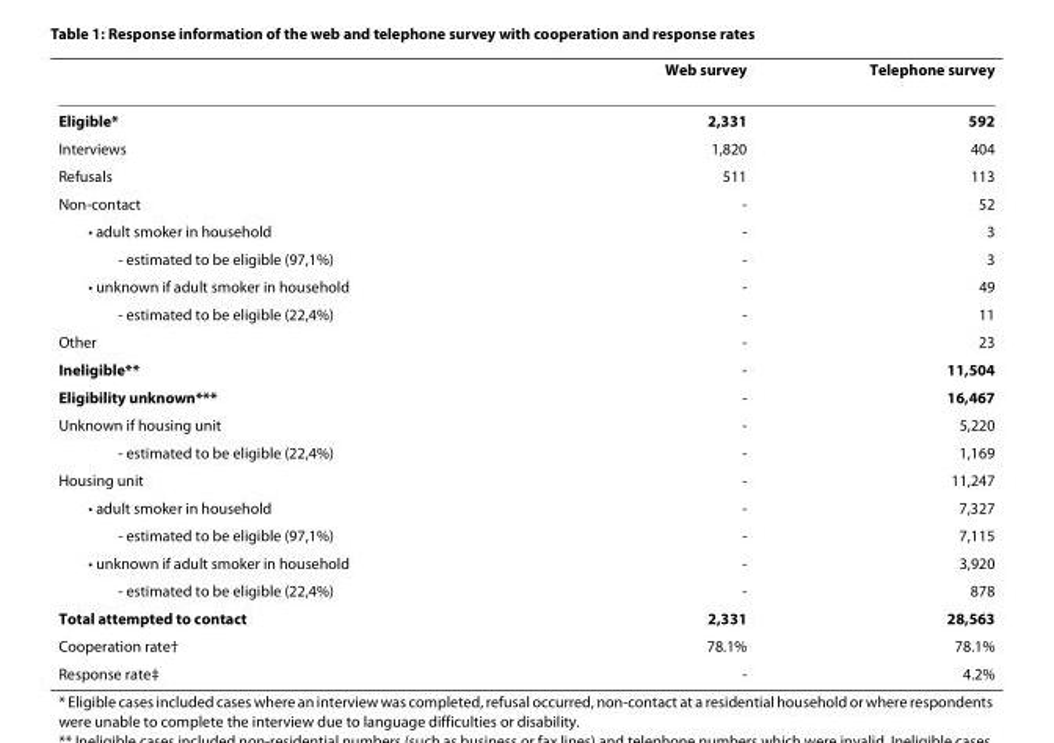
<table><thead><tr><td></td><td>Web survey</td><td>Telephone survey</td></tr></thead><tbody><tr><td>Eligible*</td><td>2,331</td><td>592</td></tr><tr><td>Interviews</td><td>1,820</td><td>404</td></tr><tr><td>Refusals</td><td>511</td><td>113</td></tr><tr><td>Non-contact</td><td>-</td><td>52</td></tr><tr><td>• adult smoker in household</td><td>-</td><td>3</td></tr><tr><td>- estimated to be eligible (97,1%)</td><td>-</td><td>3</td></tr><tr><td>• unknown if adult smoker in household</td><td>-</td><td>49</td></tr><tr><td>- estimated to be eligible (22,4%)</td><td>-</td><td>11</td></tr><tr><td>Other</td><td>-</td><td>23</td></tr><tr><td>Ineligible**</td><td>-</td><td>11,504</td></tr><tr><td>Eligibility unknown***</td><td>-</td><td>16,467</td></tr><tr><td>Unknown if housing unit</td><td>-</td><td>5,220</td></tr><tr><td>- estimated to be eligible (22,4%)</td><td>-</td><td>1,169</td></tr><tr><td>Housing unit</td><td>-</td><td>11,247</td></tr><tr><td>• adult smoker in household</td><td>-</td><td>7,327</td></tr><tr><td>- estimated to be eligible (97,1%)</td><td>-</td><td>7,115</td></tr><tr><td>• unknown if adult smoker in household</td><td>-</td><td>3,920</td></tr><tr><td>- estimated to be eligible (22,4%)</td><td>-</td><td>878</td></tr><tr><td>Total attempted to contact</td><td>2,331</td><td>28,563</td></tr><tr><td>Cooperation rate†</td><td>78.1%</td><td>78.1%</td></tr><tr><td>Response rate‡</td><td>-</td><td>4.2%</td></tr></tbody></table>